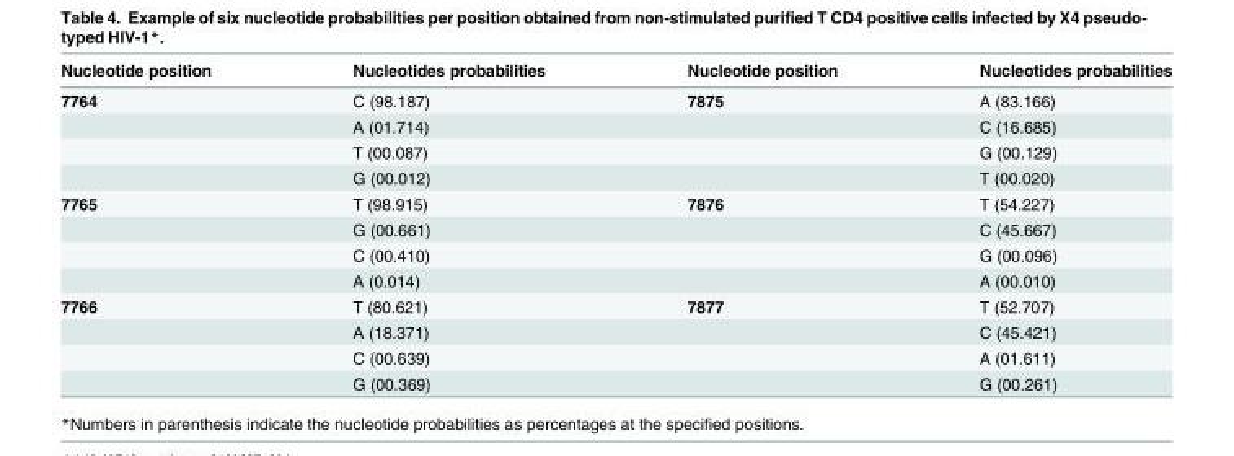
<table><thead><tr><td>Nucleotide position</td><td>Nucleotides probabilities</td><td>Nucleotide position</td><td>Nucleotides probabilities</td></tr></thead><tbody><tr><td rowspan="4">7764</td><td>C (98.187)</td><td>7875</td><td>A (83.166)</td></tr><tr><td>A (01.714)</td><td></td><td>C (16.685)</td></tr><tr><td>T (00.087)</td><td></td><td>G (00.129)</td></tr><tr><td colspan="2">G (00.012)</td><td>T (00.020)</td></tr><tr><td rowspan="4">7765</td><td>T (98.915)</td><td>7876</td><td>T (54.227)</td></tr><tr><td colspan="2">G (00.661)</td><td>C (45.667)</td></tr><tr><td>C (00.410)</td><td></td><td>G (00.096)</td></tr><tr><td>A (0.014)</td><td></td><td>A (00.010)</td></tr><tr><td rowspan="4">7766</td><td>T (80.621)</td><td>7877</td><td>T (52.707)</td></tr><tr><td>A (18.371)</td><td></td><td>C (45.421)</td></tr><tr><td>C (00.639)</td><td></td><td>A (01.611)</td></tr><tr><td colspan="2">G (00.369)</td><td>G (00.261)</td></tr></tbody></table>